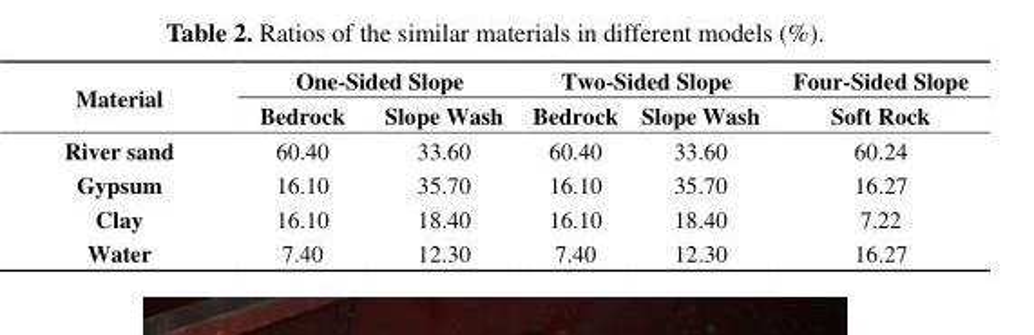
<table><thead><tr><td rowspan="2">Material</td><td colspan="2">One-Sided Slope</td><td colspan="2">Two-Sided Slope</td><td rowspan="2">Four-Sided Slope Soft Rock</td></tr><tr><td>Bedrock</td><td>Slope Wash</td><td>Bedrock</td><td>Slope Wash</td></tr></thead><tbody><tr><td>River sand</td><td>60.40</td><td>33.60</td><td>60.40</td><td>33.60</td><td>60.24</td></tr><tr><td>Gypsum</td><td>16.10</td><td>35.70</td><td>16.10</td><td>35.70</td><td>16.27</td></tr><tr><td>Clay</td><td>16.10</td><td>18.40</td><td>16.10</td><td>18.40</td><td>7.22</td></tr><tr><td>Water</td><td>7.40</td><td>12.30</td><td>7.40</td><td>12.30</td><td>16.27</td></tr></tbody></table>